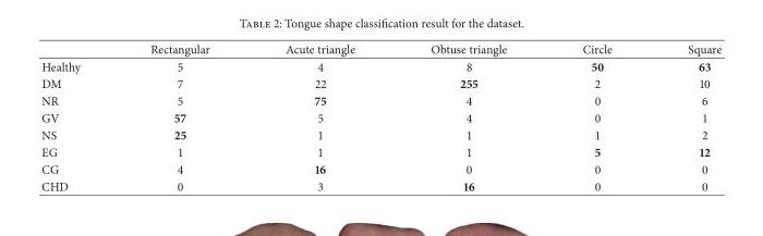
<table><thead><tr><td></td><td>Rectangular</td><td>Acute triangle</td><td>Obtuse triangle</td><td>Circle</td><td>Square</td></tr></thead><tbody><tr><td>Healthy</td><td>5</td><td>4</td><td>8</td><td>50</td><td>63</td></tr><tr><td>DM</td><td>7</td><td>22</td><td>255</td><td>2</td><td>10</td></tr><tr><td>NR</td><td>5</td><td>75</td><td>4</td><td>0</td><td>6</td></tr><tr><td>GV</td><td>57</td><td>5</td><td>4</td><td>0</td><td>1</td></tr><tr><td>NS</td><td>25</td><td>1</td><td>1</td><td>1</td><td>2</td></tr><tr><td>EG</td><td>1</td><td>1</td><td>1</td><td>5</td><td>12</td></tr><tr><td>CG</td><td>4</td><td>16</td><td>0</td><td>0</td><td>0</td></tr><tr><td>CHD</td><td>0</td><td>3</td><td>16</td><td>0</td><td>0</td></tr></tbody></table>